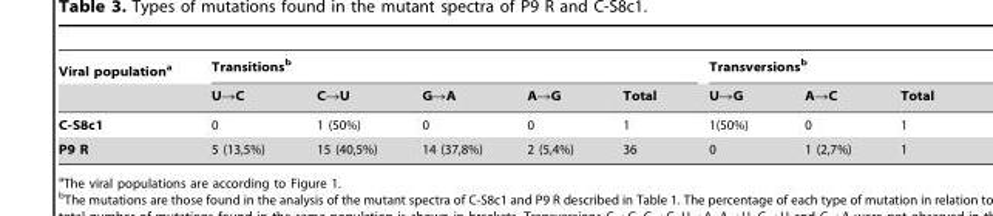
<table><thead><tr><td rowspan="2">Viral population<sup>a</sup></td><td colspan="5">Transitions<sup>b</sup></td><td colspan="3">Transversions<sup>b</sup></td></tr><tr><td>U→C</td><td>C→U</td><td>G→A</td><td>A→G</td><td>Total</td><td>U→G</td><td>A→C</td><td>Total</td></tr></thead><tbody><tr><td>C-S8c1</td><td>0</td><td>1 (50%)</td><td>0</td><td>0</td><td>1</td><td>1(50%)</td><td>0</td><td>1</td></tr><tr><td>P9 R</td><td>5 (13,5%)</td><td>15 (40,5%)</td><td>14 (37,8%)</td><td>2 (5,4%)</td><td>36</td><td>0</td><td>1 (2,7%)</td><td>1</td></tr></tbody></table>